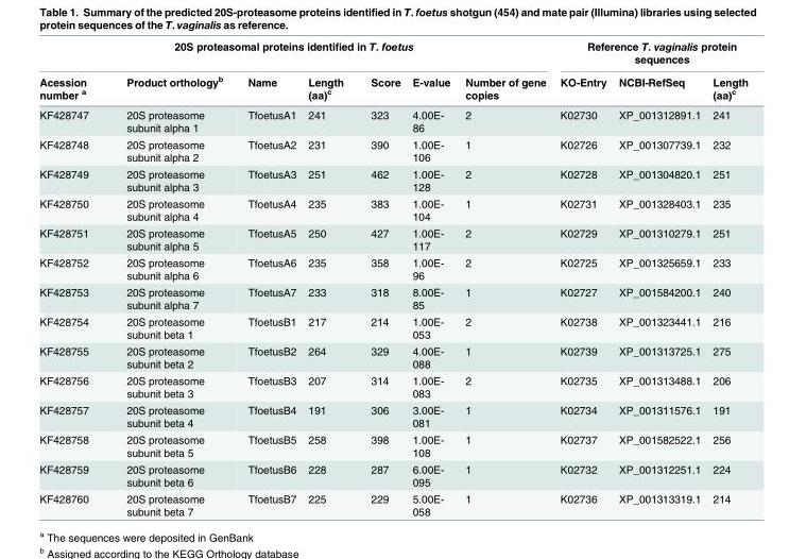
<table><thead><tr><td colspan="7">20S proteasomal proteins identified in T. foetus</td><td colspan="3">Reference T. vaginalis protein sequences</td></tr><tr><td>Acession number <sup>a</sup></td><td>Product orthology<sup>b</sup></td><td>Name</td><td>Length (aa)<sup>c</sup></td><td>Score</td><td>E-value</td><td>Number of gene copies</td><td>KO-Entry</td><td>NCBI-RefSeq</td><td>Length (aa)<sup>c</sup></td></tr></thead><tbody><tr><td>KF428747</td><td>20S proteasome subunit alpha 1</td><td>TfoetusA1</td><td>241</td><td>323</td><td>4.00E- 86</td><td>2</td><td>K02730</td><td>XP_001312891.1</td><td>241</td></tr><tr><td>KF428748</td><td>20S proteasome subunit alpha 2</td><td>TfoetusA2</td><td>231</td><td>390</td><td>1.00E- 106</td><td>1</td><td>K02726</td><td>XP_001307739.1</td><td>232</td></tr><tr><td>KF428749</td><td>20S proteasome subunit alpha 3</td><td>TfoetusA3</td><td>251</td><td>462</td><td>1.00E- 128</td><td>2</td><td>K02728</td><td>XP_001304820.1</td><td>251</td></tr><tr><td>KF428750</td><td>20S proteasome subunit alpha 4</td><td>TfoetusA4</td><td>235</td><td>383</td><td>1.00E- 104</td><td>1</td><td>K02731</td><td>XP_001328403.1</td><td>235</td></tr><tr><td>KF428751</td><td>20S proteasome subunit alpha 5</td><td>TfoetusA5</td><td>250</td><td>427</td><td>1.00E- 117</td><td>2</td><td>K02729</td><td>XP_001310279.1</td><td>251</td></tr><tr><td>KF428752</td><td>20S proteasome subunit alpha 6</td><td>TfoetusA6</td><td>235</td><td>358</td><td>1.00E- 96</td><td>2</td><td>K02725</td><td>XP_001325659.1</td><td>233</td></tr><tr><td>KF428753</td><td>20S proteasome subunit alpha 7</td><td>TfoetusA7</td><td>233</td><td>318</td><td>8.00E- 85</td><td>1</td><td>K02727</td><td>XP_001584200.1</td><td>240</td></tr><tr><td>KF428754</td><td>20S proteasome subunit beta 1</td><td>TfoetusB1</td><td>217</td><td>214</td><td>1.00E- 053</td><td>2</td><td>K02738</td><td>XP_001323441.1</td><td>216</td></tr><tr><td>KF428755</td><td>20S proteasome subunit beta 2</td><td>TfoetusB2</td><td>264</td><td>329</td><td>4.00E- 088</td><td>1</td><td>K02739</td><td>XP_001313725.1</td><td>275</td></tr><tr><td>KF428756</td><td>20S proteasome subunit beta 3</td><td>TfoetusB3</td><td>207</td><td>314</td><td>1.00E- 083</td><td>2</td><td>K02735</td><td>XP_001313488.1</td><td>206</td></tr><tr><td>KF428757</td><td>20S proteasome subunit beta 4</td><td>TfoetusB4</td><td>191</td><td>306</td><td>3.00E- 081</td><td>1</td><td>K02734</td><td>XP_001311576.1</td><td>191</td></tr><tr><td>KF428758</td><td>20S proteasome subunit beta 5</td><td>TfoetusB5</td><td>258</td><td>398</td><td>1.00E- 108</td><td>1</td><td>K02737</td><td>XP_001582522.1</td><td>256</td></tr><tr><td>KF428759</td><td>20S proteasome subunit beta 6</td><td>TfoetusB6</td><td>228</td><td>287</td><td>6.00E- 095</td><td>1</td><td>K02732</td><td>XP_001312251.1</td><td>224</td></tr><tr><td>KF428760</td><td>20S proteasome subunit beta 7</td><td>TfoetusB7</td><td>225</td><td>229</td><td>5.00E- 058</td><td>1</td><td>K02736</td><td>XP_001313319.1</td><td>214</td></tr></tbody></table>